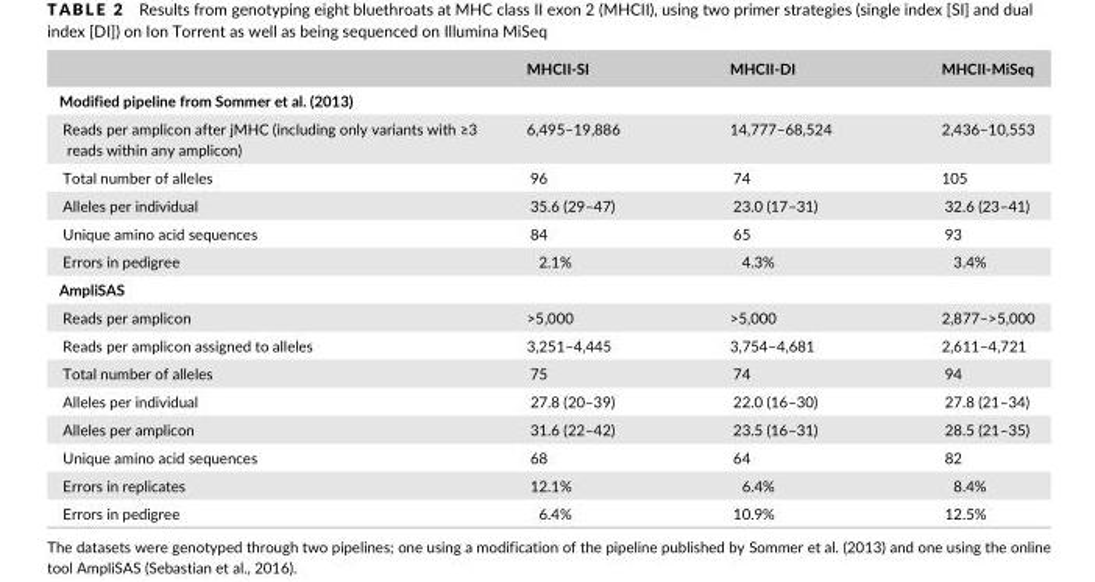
<table><thead><tr><td></td><td>MHCII- SI</td><td>MHCII- DI</td><td>MHCII- MiSeq</td></tr></thead><tbody><tr><td colspan="4">Modified pipeline from Sommer et al. (2013)</td></tr><tr><td>Reads per amplicon after jMHC (including only variants with ≥3 reads within any amplicon)</td><td>6,495–19,886</td><td>14,777–68,524</td><td>2,436–10,553</td></tr><tr><td>Total number of alleles</td><td>96</td><td>74</td><td>105</td></tr><tr><td>Alleles per individual</td><td>35.6 (29–47)</td><td>23.0 (17–31)</td><td>32.6 (23–41)</td></tr><tr><td>Unique amino acid sequences</td><td>84</td><td>65</td><td>93</td></tr><tr><td>Errors in pedigree</td><td>2.1%</td><td>4.3%</td><td>3.4%</td></tr><tr><td colspan="4">AmpliSAS</td></tr><tr><td>Reads per amplicon</td><td>&gt;5,000</td><td>&gt;5,000</td><td>2,877–&gt;5,000</td></tr><tr><td>Reads per amplicon assigned to alleles</td><td>3,251–4,445</td><td>3,754–4,681</td><td>2,611–4,721</td></tr><tr><td>Total number of alleles</td><td>75</td><td>74</td><td>94</td></tr><tr><td>Alleles per individual</td><td>27.8 (20–39)</td><td>22.0 (16–30)</td><td>27.8 (21–34)</td></tr><tr><td>Alleles per amplicon</td><td>31.6 (22–42)</td><td>23.5 (16–31)</td><td>28.5 (21–35)</td></tr><tr><td>Unique amino acid sequences</td><td>68</td><td>64</td><td>82</td></tr><tr><td>Errors in replicates</td><td>12.1%</td><td>6.4%</td><td>8.4%</td></tr><tr><td>Errors in pedigree</td><td>6.4%</td><td>10.9%</td><td>12.5%</td></tr></tbody></table>